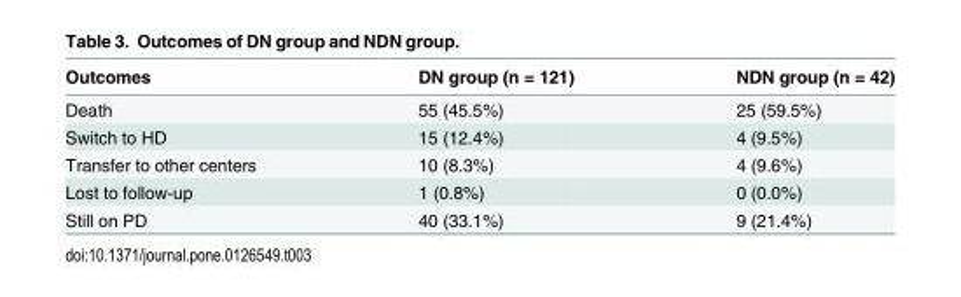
<table><thead><tr><td>Outcomes</td><td>DN group (n = 121)</td><td>NDN group (n = 42)</td></tr></thead><tbody><tr><td>Death</td><td>55 (45.5%)</td><td>25 (59.5%)</td></tr><tr><td>Switch to HD</td><td>15 (12.4%)</td><td>4 (9.5%)</td></tr><tr><td>Transfer to other centers</td><td>10 (8.3%)</td><td>4 (9.6%)</td></tr><tr><td>Lost to follow-up</td><td>1 (0.8%)</td><td>0 (0.0%)</td></tr><tr><td>Still on PD</td><td>40 (33.1%)</td><td>9 (21.4%)</td></tr></tbody></table>